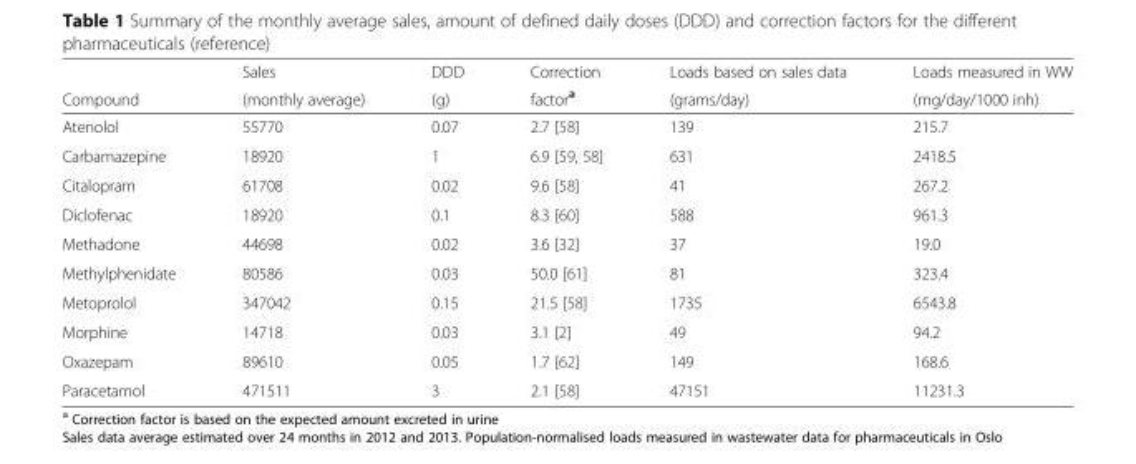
<table><thead><tr><td rowspan="2">Compound</td><td rowspan="2">Sales (monthly average)</td><td rowspan="2">DDD (g)</td><td rowspan="2">Correction factor<sup>a</sup></td><td rowspan="2">Loads based on sales data (grams/day)</td><td rowspan="2">Loads measured in WW (mg/day/1000 inh)</td></tr><tr></tr></thead><tbody><tr><td>Atenolol</td><td>55770</td><td>0.07</td><td>2.7 [58]</td><td>139</td><td>215.7</td></tr><tr><td>Carbamazepine</td><td>18920</td><td>1</td><td>6.9 [59, 58]</td><td>631</td><td>2418.5</td></tr><tr><td>Citalopram</td><td>61708</td><td>0.02</td><td>9.6 [58]</td><td>41</td><td>267.2</td></tr><tr><td>Diclofenac</td><td>18920</td><td>0.1</td><td>8.3 [60]</td><td>588</td><td>961.3</td></tr><tr><td>Methadone</td><td>44698</td><td>0.02</td><td>3.6 [32]</td><td>37</td><td>19.0</td></tr><tr><td>Methylphenidate</td><td>80586</td><td>0.03</td><td>50.0 [61]</td><td>81</td><td>323.4</td></tr><tr><td>Metoprolol</td><td>347042</td><td>0.15</td><td>21.5 [58]</td><td>1735</td><td>6543.8</td></tr><tr><td>Morphine</td><td>14718</td><td>0.03</td><td>3.1 [2]</td><td>49</td><td>94.2</td></tr><tr><td>Oxazepam</td><td>89610</td><td>0.05</td><td>1.7 [62]</td><td>149</td><td>168.6</td></tr><tr><td>Paracetamol</td><td>471511</td><td>3</td><td>2.1 [58]</td><td>47151</td><td>11231.3</td></tr></tbody></table>